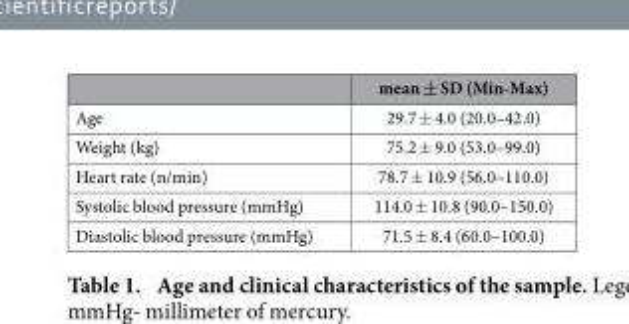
<table><thead><tr><td></td><td>mean ± SD (Min-Max)</td></tr></thead><tbody><tr><td>Age</td><td>29.7 ± 4.0 (20.0–42.0)</td></tr><tr><td>Weight (kg)</td><td>75.2 ± 9.0 (53.0–99.0)</td></tr><tr><td>Heart rate (n/min)</td><td>78.7 ± 10.9 (56.0–110.0)</td></tr><tr><td>Systolic blood pressure (mmHg)</td><td>114.0 ± 10.8 (90.0–150.0)</td></tr><tr><td>Diastolic blood pressure (mmHg)</td><td>71.5 ± 8.4 (60.0–100.0)</td></tr></tbody></table>